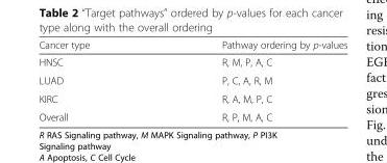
<table><thead><tr><td>Cancer type</td><td>Pathway ordering by p-values</td></tr></thead><tbody><tr><td>HNSC</td><td>R, M, P, A, C</td></tr><tr><td>LUAD</td><td>P, C, A, R, M</td></tr><tr><td>KIRC</td><td>R, A, M, P, C</td></tr><tr><td>Overall</td><td>R, P, M, A, C</td></tr></tbody></table>